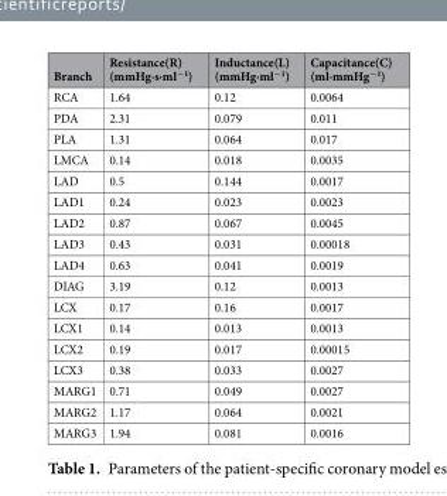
<table><thead><tr><td>Branch</td><td>Resistance(R) (mmHg·s·ml<sup>−1</sup>)</td><td>Inductance(L) (mmHg·ml<sup>−1</sup>)</td><td>Capacitance(C) (ml·mmHg<sup>−1</sup>)</td></tr></thead><tbody><tr><td>RCA</td><td>1.64</td><td>0.12</td><td>0.0064</td></tr><tr><td>PDA</td><td>2.31</td><td>0.079</td><td>0.011</td></tr><tr><td>PLA</td><td>1.31</td><td>0.064</td><td>0.017</td></tr><tr><td>LMCA</td><td>0.14</td><td>0.018</td><td>0.0035</td></tr><tr><td>LAD</td><td>0.5</td><td>0.144</td><td>0.0017</td></tr><tr><td>LAD1</td><td>0.24</td><td>0.023</td><td>0.0023</td></tr><tr><td>LAD2</td><td>0.87</td><td>0.067</td><td>0.0045</td></tr><tr><td>LAD3</td><td>0.43</td><td>0.031</td><td>0.00018</td></tr><tr><td>LAD4</td><td>0.63</td><td>0.041</td><td>0.0019</td></tr><tr><td>DIAG</td><td>3.19</td><td>0.12</td><td>0.0013</td></tr><tr><td>LCX</td><td>0.17</td><td>0.16</td><td>0.0017</td></tr><tr><td>LCX1</td><td>0.14</td><td>0.013</td><td>0.0013</td></tr><tr><td>LCX2</td><td>0.19</td><td>0.017</td><td>0.00015</td></tr><tr><td>LCX3</td><td>0.38</td><td>0.033</td><td>0.0027</td></tr><tr><td>MARG1</td><td>0.71</td><td>0.049</td><td>0.0027</td></tr><tr><td>MARG2</td><td>1.17</td><td>0.064</td><td>0.0021</td></tr><tr><td>MARG3</td><td>1.94</td><td>0.081</td><td>0.0016</td></tr></tbody></table>